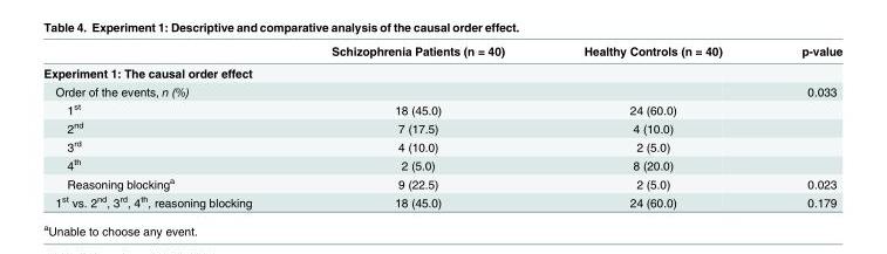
<table><thead><tr><td></td><td>Schizophrenia Patients (n = 40)</td><td>Healthy Controls (n = 40)</td><td>p-value</td></tr></thead><tbody><tr><td colspan="4">Experiment 1: The causal order effect</td></tr><tr><td>Order of the events, n (%)</td><td></td><td></td><td>0.033</td></tr><tr><td>1<sup>st</sup></td><td>18 (45.0)</td><td>24 (60.0)</td><td></td></tr><tr><td>2<sup>nd</sup></td><td>7 (17.5)</td><td>4 (10.0)</td><td></td></tr><tr><td>3<sup>rd</sup></td><td>4 (10.0)</td><td>2 (5.0)</td><td></td></tr><tr><td>4<sup>th</sup></td><td>2 (5.0)</td><td>8 (20.0)</td><td></td></tr><tr><td>Reasoning blocking<sup>a</sup></td><td>9 (22.5)</td><td>2 (5.0)</td><td>0.023</td></tr><tr><td>1<sup>st</sup> vs. 2<sup>nd</sup>, 3<sup>rd</sup>, 4<sup>th</sup>, reasoning blocking</td><td>18 (45.0)</td><td>24 (60.0)</td><td>0.179</td></tr></tbody></table>